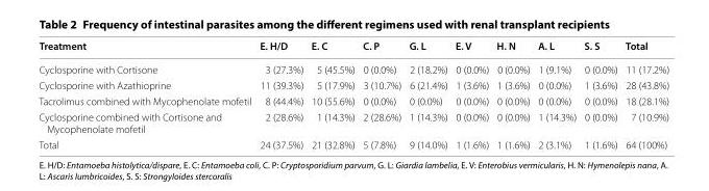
<table><thead><tr><td>Treatment</td><td>E. H/D</td><td>E. C</td><td>C. P</td><td>G. L</td><td>E. V</td><td>H. N</td><td>A. L</td><td>S. S</td><td>Total</td></tr></thead><tbody><tr><td>Cyclosporine with Cortisone</td><td>3 (27.3%)</td><td>5 (45.5%)</td><td>0 (0.0%)</td><td>2 (18.2%)</td><td>0 (0.0%)</td><td>0 (0.0%)</td><td>1 (9.1%)</td><td>0 (0.0%)</td><td>11 (17.2%)</td></tr><tr><td>Cyclosporine with Azathioprine</td><td>11 (39.3%)</td><td>5 (17.9%)</td><td>3 (10.7%)</td><td>6 (21.4%)</td><td>1 (3.6%)</td><td>1 (3.6%)</td><td>0 (0.0%)</td><td>1 (3.6%)</td><td>28 (43.8%)</td></tr><tr><td>Tacrolimus combined with Mycophenolate mofetil</td><td>8 (44.4%)</td><td>10 (55.6%)</td><td>0 (0.0%)</td><td>0 (0.0%)</td><td>0 (0.0%)</td><td>0 (0.0%)</td><td>0 (0.0%)</td><td>0 (0.0%)</td><td>18 (28.1%)</td></tr><tr><td>Cyclosporine combined with Cortisone and Mycophenolate mofetil</td><td>2 (28.6%)</td><td>1 (14.3%)</td><td>2 (28.6%)</td><td>1 (14.3%)</td><td>0 (0.0%)</td><td>0 (0.0%)</td><td>1 (14.3%)</td><td>0 (0.0%)</td><td>7 (10.9%)</td></tr><tr><td>Total</td><td>24 (37.5%)</td><td>21 (32.8%)</td><td>5 (7.8%)</td><td>9 (14.0%)</td><td>1 (1.6%)</td><td>1 (1.6%)</td><td>2 (3.1%)</td><td>1 (1.6%)</td><td>64 (100%)</td></tr></tbody></table>